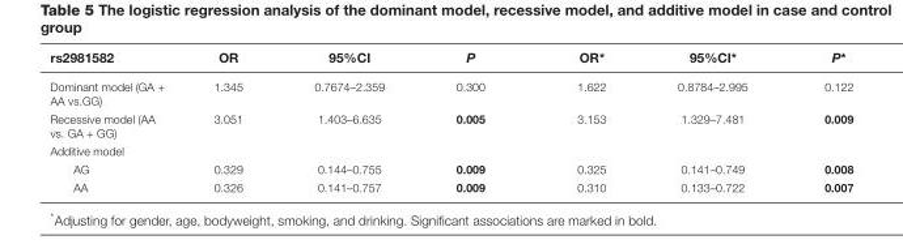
<table><thead><tr><td>rs2981582</td><td>OR</td><td>95%CI</td><td>P</td><td>OR*</td><td>95%CI*</td><td>P*</td></tr></thead><tbody><tr><td>Dominant model (GA + AA vs.GG)</td><td>1.345</td><td>0.7674–2.359</td><td>0.300</td><td>1.622</td><td>0.8784–2.995</td><td>0.122</td></tr><tr><td>Recessive model (AA vs. GA + GG)</td><td>3.051</td><td>1.403–6.635</td><td>0.005</td><td>3.153</td><td>1.329–7.481</td><td>0.009</td></tr><tr><td colspan="7">Additive model</td></tr><tr><td>AG</td><td>0.329</td><td>0.144–0.755</td><td>0.009</td><td>0.325</td><td>0.141–0.749</td><td>0.008</td></tr><tr><td>AA</td><td>0.326</td><td>0.141–0.757</td><td>0.009</td><td>0.310</td><td>0.133–0.722</td><td>0.007</td></tr></tbody></table>